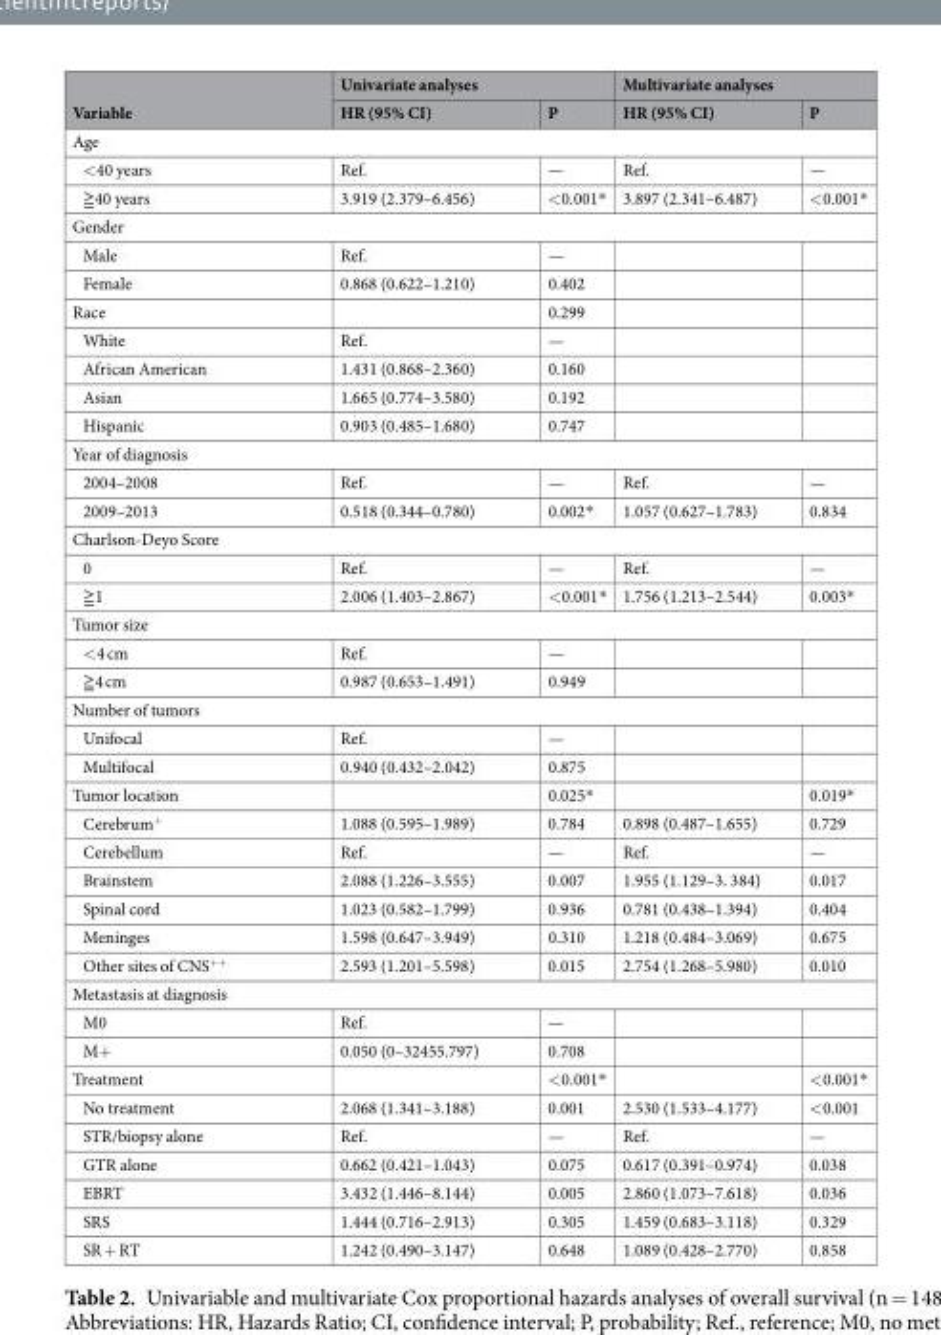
<table><thead><tr><td rowspan="2">Variable</td><td colspan="2">Univariate analyses</td><td colspan="2">Multivariate analyses</td></tr><tr><td>HR (95% CI)</td><td>P</td><td>HR (95% CI)</td><td>P</td></tr></thead><tbody><tr><td colspan="5">Age</td></tr><tr><td>&lt;40 years</td><td>Ref.</td><td>—</td><td>Ref.</td><td>—</td></tr><tr><td>≧40 years</td><td>3.919 (2.379–6.456)</td><td>&lt;0.001*</td><td>3.897 (2.341–6.487)</td><td>&lt;0.001*</td></tr><tr><td colspan="5">Gender</td></tr><tr><td>Male</td><td>Ref.</td><td>—</td><td></td><td></td></tr><tr><td>Female</td><td>0.868 (0.622–1.210)</td><td>0.402</td><td></td><td></td></tr><tr><td>Race</td><td></td><td>0.299</td><td></td><td></td></tr><tr><td>White</td><td>Ref.</td><td>—</td><td></td><td></td></tr><tr><td>African American</td><td>1.431 (0.868–2.360)</td><td>0.160</td><td></td><td></td></tr><tr><td>Asian</td><td>1.665 (0.774–3.580)</td><td>0.192</td><td></td><td></td></tr><tr><td>Hispanic</td><td>0.903 (0.485–1.680)</td><td>0.747</td><td></td><td></td></tr><tr><td colspan="5">Year of diagnosis</td></tr><tr><td>2004–2008</td><td>Ref.</td><td>—</td><td>Ref.</td><td>—</td></tr><tr><td>2009–2013</td><td>0.518 (0.344–0.780)</td><td>0.002*</td><td>1.057 (0.627–1.783)</td><td>0.834</td></tr><tr><td colspan="5">Charlson-Deyo Score</td></tr><tr><td>0</td><td>Ref.</td><td>—</td><td>Ref.</td><td>—</td></tr><tr><td>≧1</td><td>2.006 (1.403–2.867)</td><td>&lt;0.001*</td><td>1.756 (1.213–2.544)</td><td>0.003*</td></tr><tr><td colspan="5">Tumor size</td></tr><tr><td>&lt;4 cm</td><td>Ref.</td><td>—</td><td></td><td></td></tr><tr><td>≧4 cm</td><td>0.987 (0.653–1.491)</td><td>0.949</td><td></td><td></td></tr><tr><td colspan="5">Number of tumors</td></tr><tr><td>Unifocal</td><td>Ref.</td><td>—</td><td></td><td></td></tr><tr><td>Multifocal</td><td>0.940 (0.432–2.042)</td><td>0.875</td><td></td><td></td></tr><tr><td>Tumor location</td><td></td><td>0.025*</td><td></td><td>0.019*</td></tr><tr><td>Cerebrum<sup>+</sup></td><td>1.088 (0.595–1.989)</td><td>0.784</td><td>0.898 (0.487–1.655)</td><td>0.729</td></tr><tr><td>Cerebellum</td><td>Ref.</td><td>—</td><td>Ref.</td><td>—</td></tr><tr><td>Brainstem</td><td>2.088 (1.226–3.555)</td><td>0.007</td><td>1.955 (1.129–3. 384)</td><td>0.017</td></tr><tr><td>Spinal cord</td><td>1.023 (0.582–1.799)</td><td>0.936</td><td>0.781 (0.438–1.394)</td><td>0.404</td></tr><tr><td>Meninges</td><td>1.598 (0.647–3.949)</td><td>0.310</td><td>1.218 (0.484–3.069)</td><td>0.675</td></tr><tr><td>Other sites of CNS<sup>++</sup></td><td>2.593 (1.201–5.598)</td><td>0.015</td><td>2.754 (1.268–5.980)</td><td>0.010</td></tr><tr><td colspan="5">Metastasis at diagnosis</td></tr><tr><td>M0</td><td>Ref.</td><td>—</td><td></td><td></td></tr><tr><td>M+</td><td>0.050 (0–32455.797)</td><td>0.708</td><td></td><td></td></tr><tr><td>Treatment</td><td></td><td>&lt;0.001*</td><td></td><td>&lt;0.001*</td></tr><tr><td>No treatment</td><td>2.068 (1.341–3.188)</td><td>0.001</td><td>2.530 (1.533–4.177)</td><td>&lt;0.001</td></tr><tr><td>STR/biopsy alone</td><td>Ref.</td><td>—</td><td>Ref.</td><td>—</td></tr><tr><td>GTR alone</td><td>0.662 (0.421–1.043)</td><td>0.075</td><td>0.617 (0.391–0.974)</td><td>0.038</td></tr><tr><td>EBRT</td><td>3.432 (1.446–8.144)</td><td>0.005</td><td>2.860 (1.073–7.618)</td><td>0.036</td></tr><tr><td>SRS</td><td>1.444 (0.716–2.913)</td><td>0.305</td><td>1.459 (0.683–3.118)</td><td>0.329</td></tr><tr><td>SR + RT</td><td>1.242 (0.490–3.147)</td><td>0.648</td><td>1.089 (0.428–2.770)</td><td>0.858</td></tr></tbody></table>